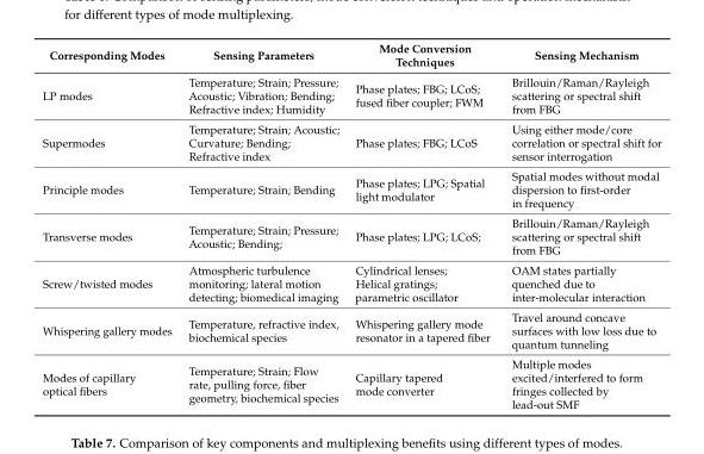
<table><thead><tr><td>Corresponding Modes</td><td>Sensing Parameters</td><td>Mode Conversion Techniques</td><td>Sensing Mechanism</td></tr></thead><tbody><tr><td>LP modes</td><td>Temperature; Strain; Pressure; Acoustic; Vibration; Bending; Refractive index; Humidity</td><td>Phase plates; FBG; LCoS; fused fiber coupler; FWM</td><td>Brillouin/Raman/Rayleigh scattering or spectral shift from FBG</td></tr><tr><td>Supermodes</td><td>Temperature; Strain; Acoustic; Curvature; Bending; Refractive index</td><td>Phase plates; FBG; LCoS</td><td>Using either mode/core correlation or spectral shift for sensor interrogation</td></tr><tr><td>Principle modes</td><td>Temperature; Strain; Bending</td><td>Phase plates; LPG; Spatial light modulator</td><td>Spatial modes without modal dispersion to first-order in frequency</td></tr><tr><td>Transverse modes</td><td>Temperature; Strain; Pressure; Acoustic; Bending;</td><td>Phase plates; LPG; LCoS;</td><td>Brillouin/Raman/Rayleigh scattering or spectral shift from FBG</td></tr><tr><td>Screw/twisted modes</td><td>Atmospheric turbulence monitoring; lateral motion detecting; biomedical imaging</td><td>Cylindrical lenses; Helical gratings; parametric oscillator</td><td>OAM states partially quenched due to inter-molecular interaction</td></tr><tr><td>Whispering gallery modes</td><td>Temperature, refractive index, biochemical species</td><td>Whispering gallery mode resonator in a tapered fiber</td><td>Travel around concave surfaces with low loss due to quantum tunneling</td></tr><tr><td>Modes of capillary optical fibers</td><td>Temperature; Strain; Flow rate, pulling force, fiber geometry, biochemical species</td><td>Capillary tapered mode converter</td><td>Multiple modes excited/interfered to form fringes collected by lead-out SMF</td></tr></tbody></table>